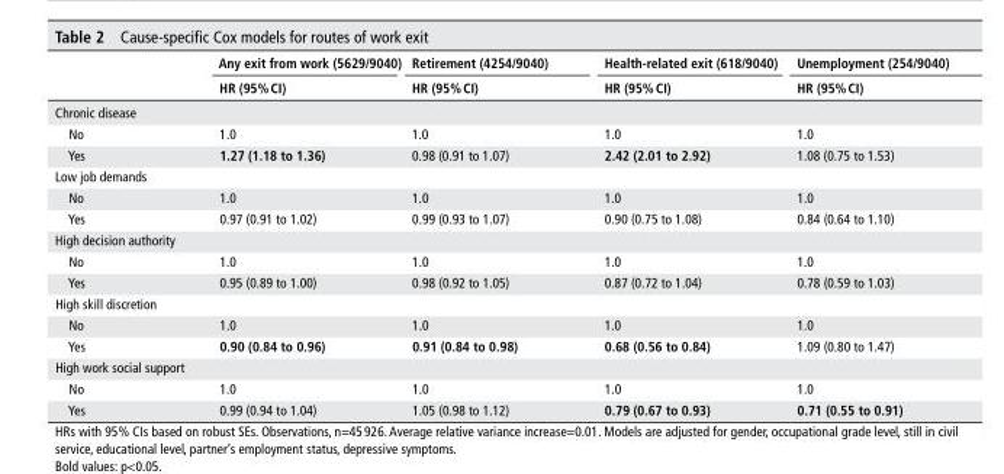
<table><thead><tr><td rowspan="2"></td><td rowspan="2">Any exit from work (5629/9040) hr (95% CI)</td><td rowspan="2">retirement (4254/9040) hr (95% CI)</td><td rowspan="2">health-related exit (618/9040) hr (95% CI)</td><td rowspan="2">unemployment (254/9040) hr (95% CI)</td></tr><tr></tr></thead><tbody><tr><td colspan="5">Chronic disease</td></tr><tr><td>No</td><td>1.0</td><td>1.0</td><td>1.0</td><td>1.0</td></tr><tr><td>Yes</td><td>1.27 (1.18 to 1.36)</td><td>0.98 (0.91 to 1.07)</td><td>2.42 (2.01 to 2.92)</td><td>1.08 (0.75 to 1.53)</td></tr><tr><td colspan="5">Low job demands</td></tr><tr><td>No</td><td>1.0</td><td>1.0</td><td>1.0</td><td>1.0</td></tr><tr><td>Yes</td><td>0.97 (0.91 to 1.02)</td><td>0.99 (0.93 to 1.07)</td><td>0.90 (0.75 to 1.08)</td><td>0.84 (0.64 to 1.10)</td></tr><tr><td colspan="5">High decision authority</td></tr><tr><td>No</td><td>1.0</td><td>1.0</td><td>1.0</td><td>1.0</td></tr><tr><td>Yes</td><td>0.95 (0.89 to 1.00)</td><td>0.98 (0.92 to 1.05)</td><td>0.87 (0.72 to 1.04)</td><td>0.78 (0.59 to 1.03)</td></tr><tr><td colspan="5">High skill discretion</td></tr><tr><td>No</td><td>1.0</td><td>1.0</td><td>1.0</td><td>1.0</td></tr><tr><td>Yes</td><td>0.90 (0.84 to 0.96)</td><td>0.91 (0.84 to 0.98)</td><td>0.68 (0.56 to 0.84)</td><td>1.09 (0.80 to 1.47)</td></tr><tr><td colspan="5">High work social support</td></tr><tr><td>No</td><td>1.0</td><td>1.0</td><td>1.0</td><td>1.0</td></tr><tr><td>Yes</td><td>0.99 (0.94 to 1.04)</td><td>1.05 (0.98 to 1.12)</td><td>0.79 (0.67 to 0.93)</td><td>0.71 (0.55 to 0.91)</td></tr></tbody></table>